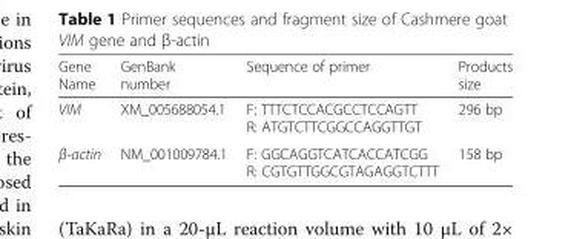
<table><thead><tr><td>Gene Name</td><td>GenBank number</td><td>Sequence of primer</td><td>Products size</td></tr></thead><tbody><tr><td>VIM</td><td>XM_005688054.1</td><td>F: TTTCTCCACGCCTCCAGTT R: ATGTCTTCGGCCAGGTTGT</td><td>296 bp</td></tr><tr><td>β-actin</td><td>NM_001009784.1</td><td>F: GGCAGGTCATCACCATCGG R: CGTGTTGGCGTAGAGGTCTTT</td><td>158 bp</td></tr></tbody></table>